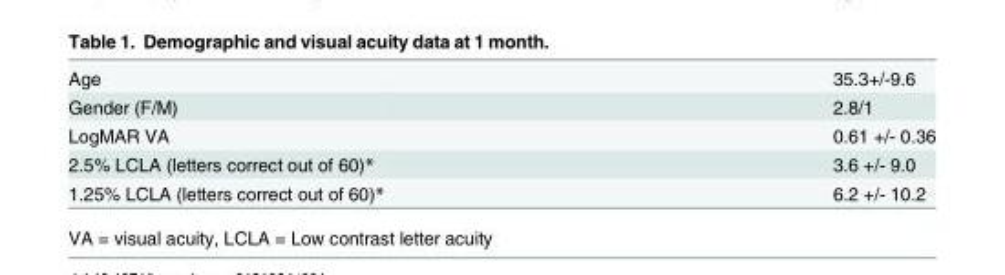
<table><tbody><tr><td>Age</td><td>35.3+/-9.6</td></tr><tr><td>Gender (F/M)</td><td>2.8/1</td></tr><tr><td>LogMAR VA</td><td>0.61 +/- 0.36</td></tr><tr><td>2.5% LCLA (letters correct out of 60)*</td><td>3.6 +/- 9.0</td></tr><tr><td>1.25% LCLA (letters correct out of 60)*</td><td>6.2 +/- 10.2</td></tr></tbody></table>